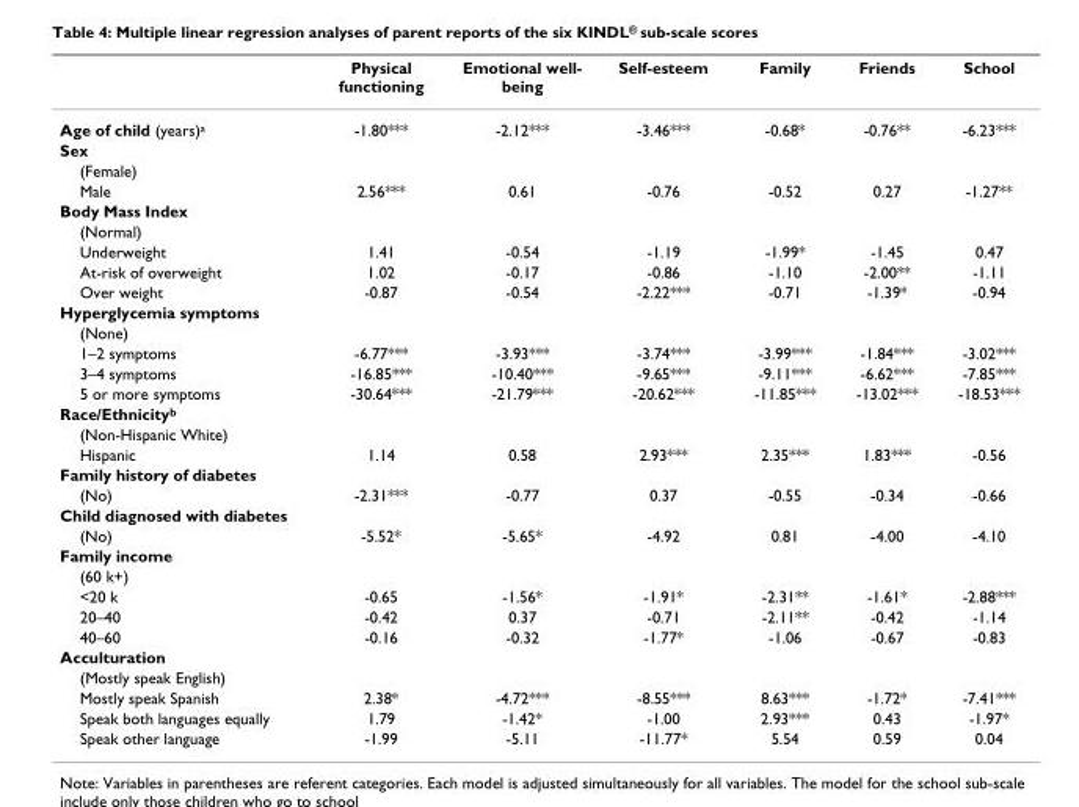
<table><thead><tr><td></td><td>Physical functioning</td><td>Emotional well- being</td><td>Self-esteem</td><td>Family</td><td>Friends</td><td>School</td></tr></thead><tbody><tr><td>Age of child (years)<sup>a</sup></td><td>-1.80***</td><td>-2.12***</td><td>-3.46***</td><td>-0.68*</td><td>-0.76**</td><td>-6.23***</td></tr><tr><td colspan="7">Sex</td></tr><tr><td colspan="7">(Female)</td></tr><tr><td>Male</td><td>2.56***</td><td>0.61</td><td>-0.76</td><td>-0.52</td><td>0.27</td><td>-1.27**</td></tr><tr><td colspan="7">Body Mass Index</td></tr><tr><td colspan="7">(Normal)</td></tr><tr><td>Underweight</td><td>1.41</td><td>-0.54</td><td>-1.19</td><td>-1.99*</td><td>-1.45</td><td>0.47</td></tr><tr><td>At-risk of overweight</td><td>1.02</td><td>-0.17</td><td>-0.86</td><td>-1.10</td><td>-2.00**</td><td>-1.11</td></tr><tr><td>Over weight</td><td>-0.87</td><td>-0.54</td><td>-2.22***</td><td>-0.71</td><td>-1.39*</td><td>-0.94</td></tr><tr><td colspan="7">Hyperglycemia symptoms</td></tr><tr><td colspan="7">(None)</td></tr><tr><td>1–2 symptoms</td><td>-6.77***</td><td>-3.93***</td><td>-3.74***</td><td>-3.99***</td><td>-1.84***</td><td>-3.02***</td></tr><tr><td>3–4 symptoms</td><td>-16.85***</td><td>-10.40***</td><td>-9.65***</td><td>-9.11***</td><td>-6.62***</td><td>-7.85***</td></tr><tr><td>5 or more symptoms</td><td>-30.64***</td><td>-21.79***</td><td>-20.62***</td><td>-11.85***</td><td>-13.02***</td><td>-18.53***</td></tr><tr><td colspan="7">Race/Ethnicity<sup>b</sup></td></tr><tr><td colspan="7">(Non-Hispanic White)</td></tr><tr><td>Hispanic</td><td>1.14</td><td>0.58</td><td>2.93***</td><td>2.35***</td><td>1.83***</td><td>-0.56</td></tr><tr><td colspan="7">Family history of diabetes</td></tr><tr><td>(No)</td><td>-2.31***</td><td>-0.77</td><td>0.37</td><td>-0.55</td><td>-0.34</td><td>-0.66</td></tr><tr><td colspan="7">Child diagnosed with diabetes</td></tr><tr><td>(No)</td><td>-5.52*</td><td>-5.65*</td><td>-4.92</td><td>0.81</td><td>-4.00</td><td>-4.10</td></tr><tr><td colspan="7">Family income</td></tr><tr><td colspan="7">(60 k+)</td></tr><tr><td>&lt;20 k</td><td>-0.65</td><td>-1.56*</td><td>-1.91*</td><td>-2.31**</td><td>-1.61*</td><td>-2.88***</td></tr><tr><td>20–40</td><td>-0.42</td><td>0.37</td><td>-0.71</td><td>-2.11**</td><td>-0.42</td><td>-1.14</td></tr><tr><td>40–60</td><td>-0.16</td><td>-0.32</td><td>-1.77*</td><td>-1.06</td><td>-0.67</td><td>-0.83</td></tr><tr><td colspan="7">Acculturation</td></tr><tr><td colspan="7">(Mostly speak English)</td></tr><tr><td>Mostly speak Spanish</td><td>2.38*</td><td>-4.72***</td><td>-8.55***</td><td>8.63***</td><td>-1.72*</td><td>-7.41***</td></tr><tr><td>Speak both languages equally</td><td>1.79</td><td>-1.42*</td><td>-1.00</td><td>2.93***</td><td>0.43</td><td>-1.97*</td></tr><tr><td>Speak other language</td><td>-1.99</td><td>-5.11</td><td>-11.77*</td><td>5.54</td><td>0.59</td><td>0.04</td></tr></tbody></table>